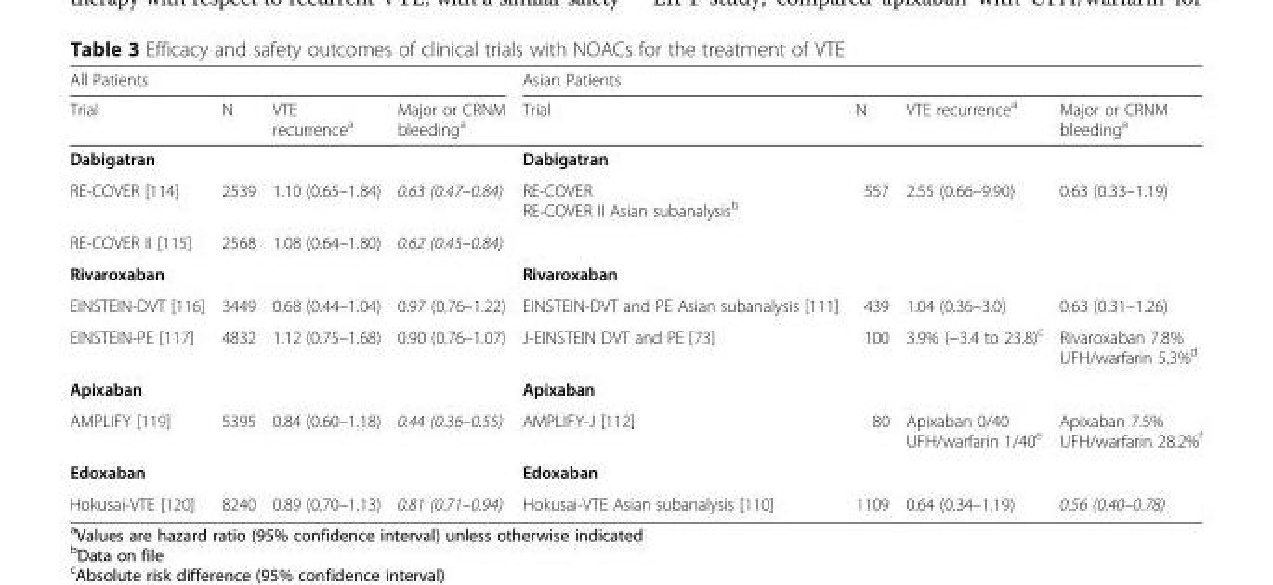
<table><thead><tr><td colspan="4">All Patients</td><td colspan="4">Asian Patients</td></tr><tr><td>Trial</td><td>N</td><td>VTE recurrence<sup>a</sup></td><td>Major or CRNM bleeding<sup>a</sup></td><td>Trial</td><td>N</td><td>VTE recurrence<sup>a</sup></td><td>Major or CRNM bleeding<sup>a</sup></td></tr></thead><tbody><tr><td>Dabigatran</td><td></td><td></td><td></td><td>Dabigatran</td><td></td><td></td><td></td></tr><tr><td>RE-COVER [114]</td><td>2539</td><td>1.10 (0.65–1.84)</td><td>0.63 (0.47–0.84)</td><td>RE-COVER RE-COVER II Asian subanalysis<sup>b</sup></td><td>557</td><td>2.55 (0.66–9.90)</td><td>0.63 (0.33–1.19)</td></tr><tr><td>RE-COVER II [115]</td><td>2568</td><td>1.08 (0.64–1.80)</td><td>0.62 (0.45–0.84)</td><td></td><td></td><td></td><td></td></tr><tr><td>Rivaroxaban</td><td></td><td></td><td></td><td>Rivaroxaban</td><td></td><td></td><td></td></tr><tr><td>EINSTEIN-DVT [116]</td><td>3449</td><td>0.68 (0.44–1.04)</td><td>0.97 (0.76–1.22)</td><td>EINSTEIN-DVT and PE Asian subanalysis [111]</td><td>439</td><td>1.04 (0.36–3.0)</td><td>0.63 (0.31–1.26)</td></tr><tr><td>EINSTEIN-PE [117]</td><td>4832</td><td>1.12 (0.75–1.68)</td><td>0.90 (0.76–1.07)</td><td>J-EINSTEIN DVT and PE [73]</td><td>100</td><td>3.9% (−3.4 to 23.8)<sup>c</sup></td><td>Rivaroxaban 7.8% UFH/warfarin 5.3%<sup>d</sup></td></tr><tr><td>Apixaban</td><td></td><td></td><td></td><td>Apixaban</td><td></td><td></td><td></td></tr><tr><td>AMPLIFY [119]</td><td>5395</td><td>0.84 (0.60–1.18)</td><td>0.44 (0.36–0.55)</td><td>AMPLIFY-J [112]</td><td>80</td><td>Apixaban 0/40 UFH/warfarin 1/40<sup>e</sup></td><td>Apixaban 7.5% UFH/warfarin 28.2%<sup>f</sup></td></tr><tr><td>Edoxaban</td><td></td><td></td><td></td><td>Edoxaban</td><td></td><td></td><td></td></tr><tr><td>Hokusai-VTE [120]</td><td>8240</td><td>0.89 (0.70–1.13)</td><td>0.81 (0.71–0.94)</td><td>Hokusai-VTE Asian subanalysis [110]</td><td>1109</td><td>0.64 (0.34–1.19)</td><td>0.56 (0.40–0.78)</td></tr></tbody></table>